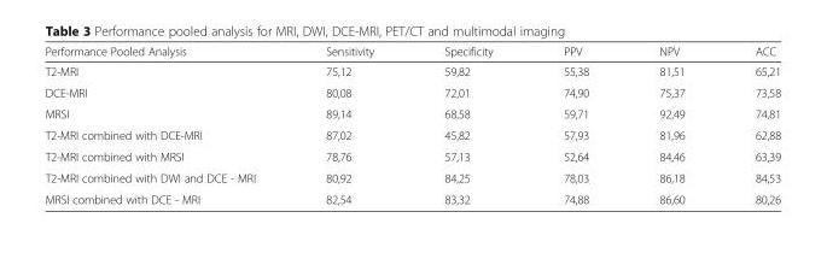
<table><thead><tr><td>Performance Pooled Analysis</td><td>Sensitivity</td><td>Specificity</td><td>PPV</td><td>NPV</td><td>ACC</td></tr></thead><tbody><tr><td>T2-MRI</td><td>75,12</td><td>59,82</td><td>55,38</td><td>81,51</td><td>65,21</td></tr><tr><td>DCE-MRI</td><td>80,08</td><td>72,01</td><td>74,90</td><td>75,37</td><td>73,58</td></tr><tr><td>MRSI</td><td>89,14</td><td>68,58</td><td>59,71</td><td>92,49</td><td>74,81</td></tr><tr><td>T2-MRI combined with DCE-MRI</td><td>87,02</td><td>45,82</td><td>57,93</td><td>81,96</td><td>62,88</td></tr><tr><td>T2-MRI combined with MRSI</td><td>78,76</td><td>57,13</td><td>52,64</td><td>84,46</td><td>63,39</td></tr><tr><td>T2-MRI combined with DWI and DCE - MRI</td><td>80,92</td><td>84,25</td><td>78,03</td><td>86,18</td><td>84,53</td></tr><tr><td>MRSI combined with DCE - MRI</td><td>82,54</td><td>83,32</td><td>74,88</td><td>86,60</td><td>80,26</td></tr></tbody></table>